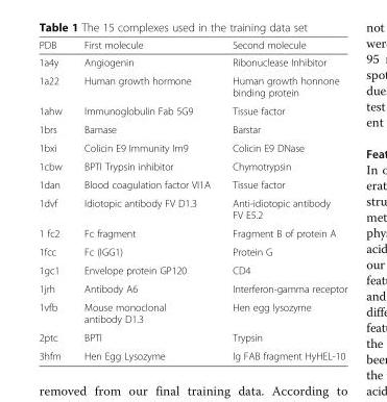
<table><thead><tr><td>PDB</td><td>First molecule</td><td>Second molecule</td></tr></thead><tbody><tr><td>1a4y</td><td>Angiogenin</td><td>Ribonuclease Inhibitor</td></tr><tr><td>1a22</td><td>Human growth hormone</td><td>Human growth honnone binding protein</td></tr><tr><td>1ahw</td><td>Immunoglobulin Fab 5G9</td><td>Tissue factor</td></tr><tr><td>1brs</td><td>Bamase</td><td>Barstar</td></tr><tr><td>1bxi</td><td>Colicin E9 Immunity Im9</td><td>Colicin E9 DNase</td></tr><tr><td>1cbw</td><td>BPTI Trypsin inhibitor</td><td>Chymotrypsin</td></tr><tr><td>1dan</td><td>Blood coagulation factor VI1A</td><td>Tissue factor</td></tr><tr><td>1dvf</td><td>Idiotopic antibody FV D1.3</td><td>Anti-idiotopic antibody FV E5.2</td></tr><tr><td>1 fc2</td><td>Fc fragment</td><td>Fragment B of protein A</td></tr><tr><td>1fcc</td><td>Fc (IGG1)</td><td>Protein G</td></tr><tr><td>1gc1</td><td>Envelope protein GP120</td><td>CD4</td></tr><tr><td>1jrh</td><td>Antibody A6</td><td>Interferon-gamma receptor</td></tr><tr><td>1vfb</td><td>Mouse monoclonal antibody D1.3</td><td>Hen egg lysozyme</td></tr><tr><td>2ptc</td><td>BPTI</td><td>Trypsin</td></tr><tr><td>3hfm</td><td>Hen Egg Lysozyme</td><td>lg FAB fragment HyHEL-10</td></tr></tbody></table>